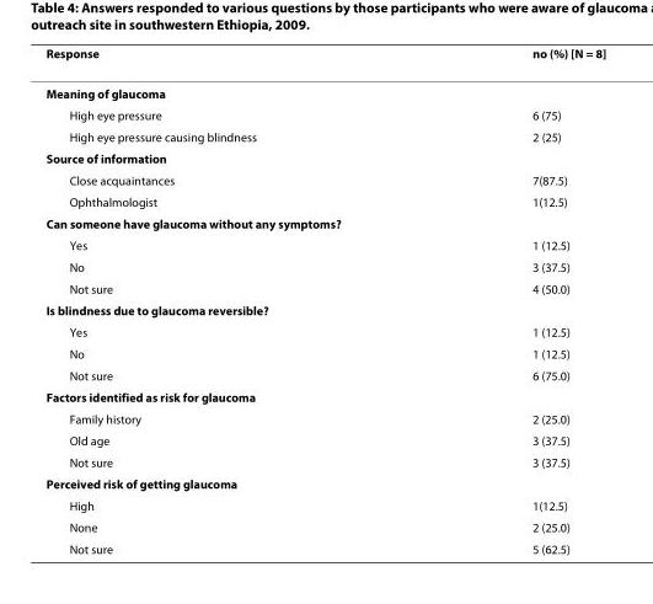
<table><thead><tr><td>Response</td><td>no (%) [N = 8]</td></tr></thead><tbody><tr><td colspan="2">Meaning of glaucoma</td></tr><tr><td>High eye pressure</td><td>6 (75)</td></tr><tr><td>High eye pressure causing blindness</td><td>2 (25)</td></tr><tr><td colspan="2">Source of information</td></tr><tr><td>Close acquaintances</td><td>7(87.5)</td></tr><tr><td>Ophthalmologist</td><td>1(12.5)</td></tr><tr><td colspan="2">Can someone have glaucoma without any symptoms?</td></tr><tr><td>Yes</td><td>1 (12.5)</td></tr><tr><td>No</td><td>3 (37.5)</td></tr><tr><td>Not sure</td><td>4 (50.0)</td></tr><tr><td colspan="2">Is blindness due to glaucoma reversible?</td></tr><tr><td>Yes</td><td>1 (12.5)</td></tr><tr><td>No</td><td>1 (12.5)</td></tr><tr><td>Not sure</td><td>6 (75.0)</td></tr><tr><td colspan="2">Factors identified as risk for glaucoma</td></tr><tr><td>Family history</td><td>2 (25.0)</td></tr><tr><td>Old age</td><td>3 (37.5)</td></tr><tr><td>Not sure</td><td>3 (37.5)</td></tr><tr><td colspan="2">Perceived risk of getting glaucoma</td></tr><tr><td>High</td><td>1(12.5)</td></tr><tr><td>None</td><td>2 (25.0)</td></tr><tr><td>Not sure</td><td>5 (62.5)</td></tr></tbody></table>